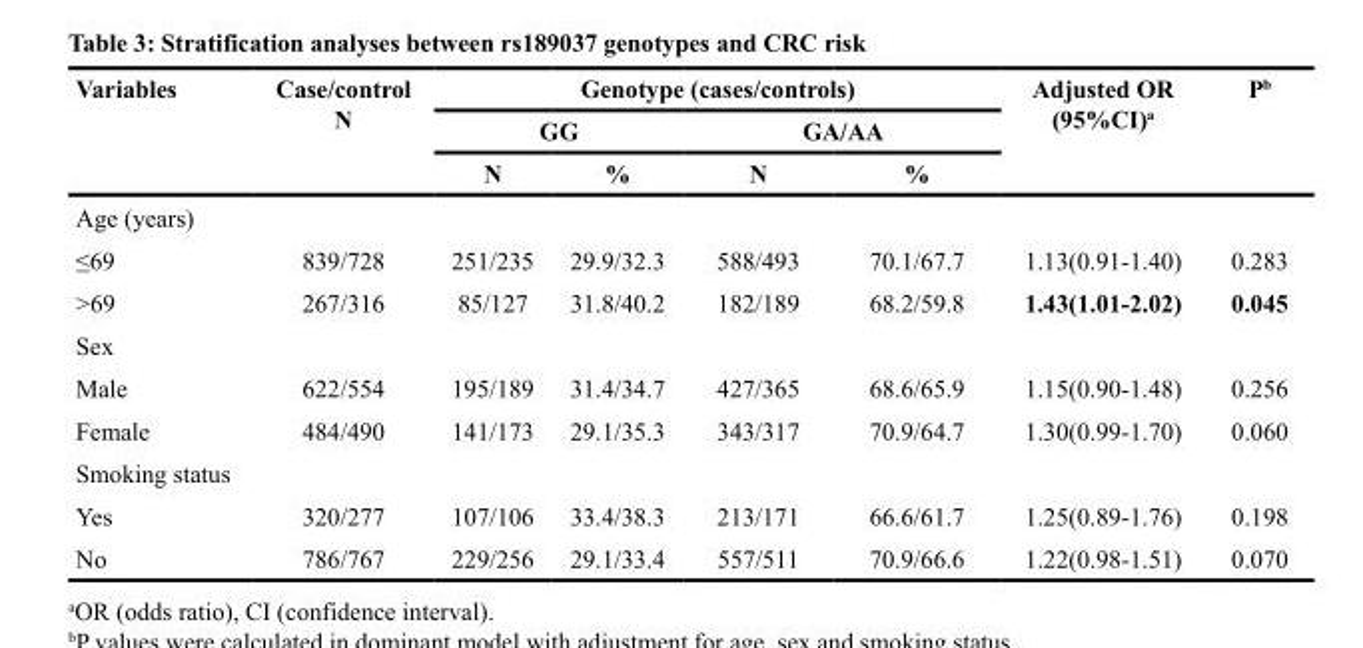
<table><thead><tr><td rowspan="3">Variables</td><td rowspan="3">Case/control N</td><td colspan="4">Genotype (cases/controls)</td><td rowspan="3">Adjusted OR (95%CI)<sup>a</sup></td><td rowspan="3">P<sup>b</sup></td></tr><tr><td colspan="2">GG</td><td colspan="2">GA/AA</td></tr><tr><td>N</td><td>%</td><td>N</td><td>%</td></tr></thead><tbody><tr><td colspan="8">Age (years)</td></tr><tr><td>≤69</td><td>839/728</td><td>251/235</td><td>29.9/32.3</td><td>588/493</td><td>70.1/67.7</td><td>1.13(0.91-1.40)</td><td>0.283</td></tr><tr><td>&gt;69</td><td>267/316</td><td>85/127</td><td>31.8/40.2</td><td>182/189</td><td>68.2/59.8</td><td>1.43(1.01-2.02)</td><td>0.045</td></tr><tr><td colspan="8">Sex</td></tr><tr><td>Male</td><td>622/554</td><td>195/189</td><td>31.4/34.7</td><td>427/365</td><td>68.6/65.9</td><td>1.15(0.90-1.48)</td><td>0.256</td></tr><tr><td>Female</td><td>484/490</td><td>141/173</td><td>29.1/35.3</td><td>343/317</td><td>70.9/64.7</td><td>1.30(0.99-1.70)</td><td>0.060</td></tr><tr><td colspan="8">Smoking status</td></tr><tr><td>Yes</td><td>320/277</td><td>107/106</td><td>33.4/38.3</td><td>213/171</td><td>66.6/61.7</td><td>1.25(0.89-1.76)</td><td>0.198</td></tr><tr><td>No</td><td>786/767</td><td>229/256</td><td>29.1/33.4</td><td>557/511</td><td>70.9/66.6</td><td>1.22(0.98-1.51)</td><td>0.070</td></tr></tbody></table>